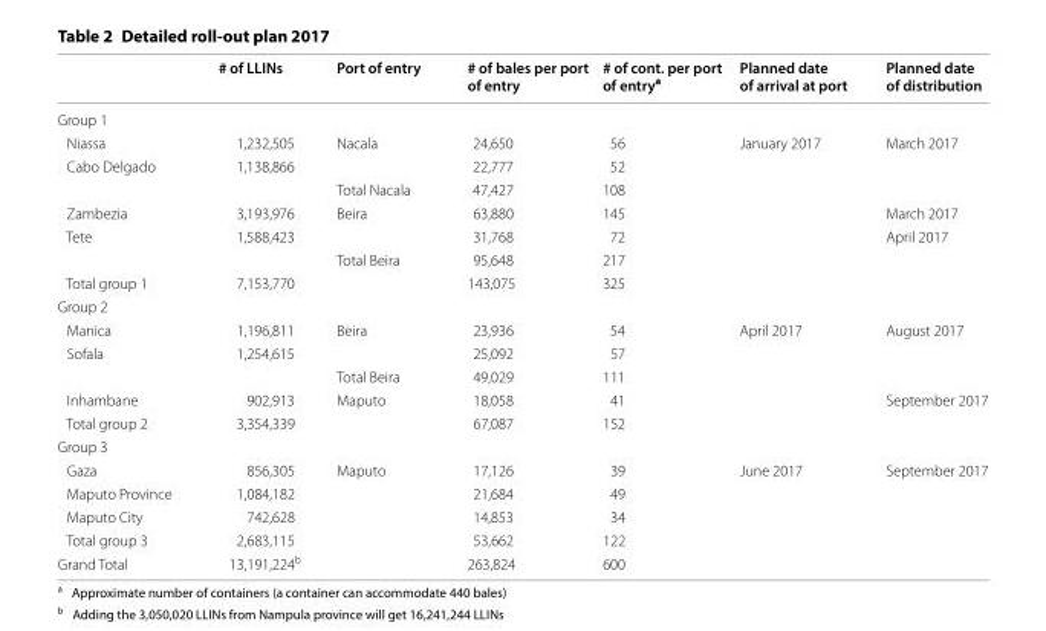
<table><thead><tr><td></td><td># of LLINs</td><td>Port of entry</td><td># of bales per port of entry</td><td># of cont. per port of entry<sup>a</sup></td><td>Planned date of arrival at port</td><td>Planned date of distribution</td></tr></thead><tbody><tr><td colspan="7">Group 1</td></tr><tr><td>Niassa</td><td>1,232,505</td><td rowspan="2">Nacala</td><td>24,650</td><td>56</td><td rowspan="6">January 2017</td><td rowspan="2">March 2017</td></tr><tr><td rowspan="2">Cabo Delgado</td><td>1,138,866</td><td>22,777</td><td>52</td></tr><tr><td></td><td>Total Nacala</td><td>47,427</td><td>108</td><td></td></tr><tr><td>Zambezia</td><td>3,193,976</td><td rowspan="2">Beira</td><td>63,880</td><td>145</td><td>March 2017</td></tr><tr><td rowspan="2">Tete</td><td>1,588,423</td><td>31,768</td><td>72</td><td>April 2017</td></tr><tr><td></td><td>Total Beira</td><td>95,648</td><td>217</td><td></td></tr><tr><td>Total group 1</td><td>7,153,770</td><td></td><td>143,075</td><td>325</td><td></td><td></td></tr><tr><td colspan="7">Group 2</td></tr><tr><td>Manica</td><td>1,196,811</td><td rowspan="2">Beira</td><td>23,936</td><td>54</td><td rowspan="4">April 2017</td><td rowspan="2">August 2017</td></tr><tr><td rowspan="2">Sofala</td><td>1,254,615</td><td>25,092</td><td>57</td></tr><tr><td></td><td>Total Beira</td><td>49,029</td><td>111</td><td></td></tr><tr><td>Inhambane</td><td>902,913</td><td>Maputo</td><td>18,058</td><td>41</td><td>September 2017</td></tr><tr><td>Total group 2</td><td>3,354,339</td><td></td><td>67,087</td><td>152</td><td></td><td></td></tr><tr><td colspan="7">Group 3</td></tr><tr><td>Gaza</td><td>856,305</td><td rowspan="3">Maputo</td><td>17,126</td><td>39</td><td rowspan="3">June 2017</td><td rowspan="3">September 2017</td></tr><tr><td>Maputo Province</td><td>1,084,182</td><td>21,684</td><td>49</td></tr><tr><td>Maputo City</td><td>742,628</td><td>14,853</td><td>34</td></tr><tr><td>Total group 3</td><td>2,683,115</td><td></td><td>53,662</td><td>122</td><td></td><td></td></tr><tr><td>Grand Total</td><td>13,191,224<sup>b</sup></td><td></td><td>263,824</td><td>600</td><td></td><td></td></tr></tbody></table>